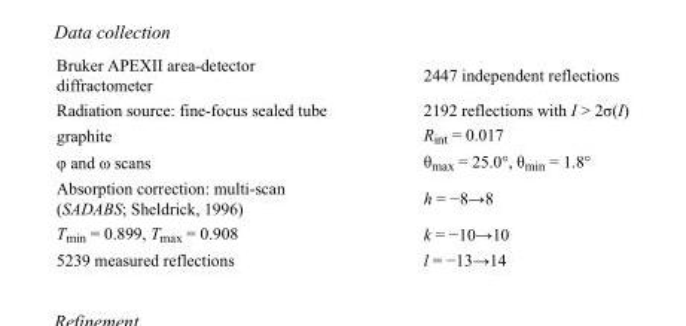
<table><tbody><tr><td>Bruker APEXII area-detector diffractometer</td><td>2447 independent reflections</td></tr><tr><td>Radiation source: fine-focus sealed tube</td><td>2192 reflections with I &gt; 2σ(I)</td></tr><tr><td>graphite</td><td>R<sub>int</sub> = 0.017</td></tr><tr><td>φ and ω scans</td><td>θ<sub>max</sub> = 25.0°, θ<sub>min</sub> = 1.8°</td></tr><tr><td>Absorption correction: multi-scan (SADABS; Sheldrick, 1996)</td><td>h = −8→8</td></tr><tr><td>T<sub>min</sub> = 0.899, T<sub>max</sub> = 0.908</td><td>k = −10→10</td></tr><tr><td>5239 measured reflections</td><td>l = −13→14</td></tr></tbody></table>